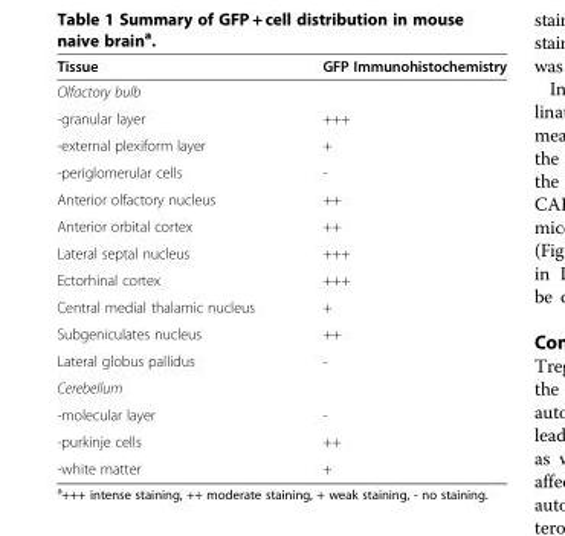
<table><thead><tr><td>Tissue</td><td>GFP Immunohistochemistry</td></tr></thead><tbody><tr><td colspan="2">Olfactory bulb</td></tr><tr><td>-granular layer</td><td>+++</td></tr><tr><td>-external plexiform layer</td><td>+</td></tr><tr><td>-periglomerular cells</td><td>-</td></tr><tr><td>Anterior olfactory nucleus</td><td>++</td></tr><tr><td>Anterior orbital cortex</td><td>++</td></tr><tr><td>Lateral septal nucleus</td><td>+++</td></tr><tr><td>Ectorhinal cortex</td><td>+++</td></tr><tr><td>Central medial thalamic nucleus</td><td>+</td></tr><tr><td>Subgeniculates nucleus</td><td>++</td></tr><tr><td>Lateral globus pallidus</td><td>-</td></tr><tr><td colspan="2">Cerebellum</td></tr><tr><td>-molecular layer</td><td>-</td></tr><tr><td>-purkinje cells</td><td>++</td></tr><tr><td>-white matter</td><td>+</td></tr></tbody></table>